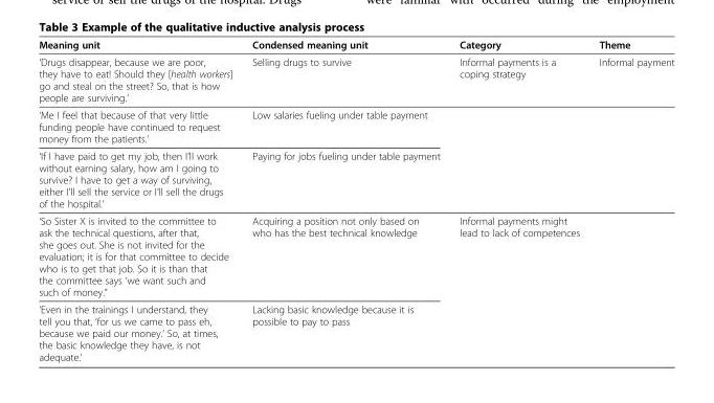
<table><thead><tr><td>Meaning unit</td><td>Condensed meaning unit</td><td>Category</td><td>Theme</td></tr></thead><tbody><tr><td>‘Drugs disappear, because we are poor, they have to eat! Should they [health workers] go and steal on the street? So, that is how people are surviving.’</td><td>Selling drugs to survive</td><td>Informal payments is a coping strategy</td><td>Informal payment</td></tr><tr><td>‘Me I feel that because of that very little funding people have continued to request money from the patients.’</td><td>Low salaries fueling under table payment</td><td></td><td></td></tr><tr><td>‘If I have paid to get my job, then I’ll work without earning salary, how am I going to survive? I have to get a way of surviving, either I’ll sell the service or I’ll sell the drugs of the hospital.’</td><td>Paying for jobs fueling under table payment</td><td></td><td></td></tr><tr><td>‘So Sister X is invited to the committee to ask the technical questions, after that, she goes out. She is not invited for the evaluation; it is for that committee to decide who is to get that job. So it is than that the committee says ‘we want such and such of money.”</td><td>Acquiring a position not only based on who has the best technical knowledge</td><td>Informal payments might lead to lack of competences</td><td></td></tr><tr><td>‘Even in the trainings I understand, they tell you that, ‘for us we came to pass eh, because we paid our money.’ So, at times, the basic knowledge they have, is not adequate.’</td><td>Lacking basic knowledge because it is possible to pay to pass</td><td></td><td></td></tr></tbody></table>